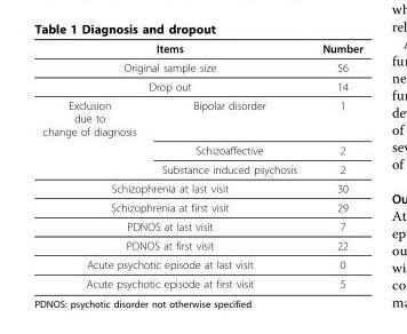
<table><thead><tr><td rowspan="3" colspan="2">Items Original sample size Drop out</td><td rowspan="4">Number 56 14 1</td></tr><tr></tr><tr></tr><tr><td>Exclusion due to change of diagnosis</td><td>Bipolar disorder</td></tr></thead><tbody><tr><td></td><td>Schizoaffective</td><td>2</td></tr><tr><td></td><td>Substance induced psychosis</td><td>2</td></tr><tr><td colspan="2">Schizophrenia at last visit</td><td>30</td></tr><tr><td colspan="2">Schizophrenia at first visit</td><td>29</td></tr><tr><td colspan="2">PDNOS at last visit</td><td>7</td></tr><tr><td colspan="2">PDNOS at first visit</td><td>22</td></tr><tr><td colspan="2">Acute psychotic episode at last visit</td><td>0</td></tr><tr><td colspan="2">Acute psychotic episode at first visit</td><td>5</td></tr></tbody></table>